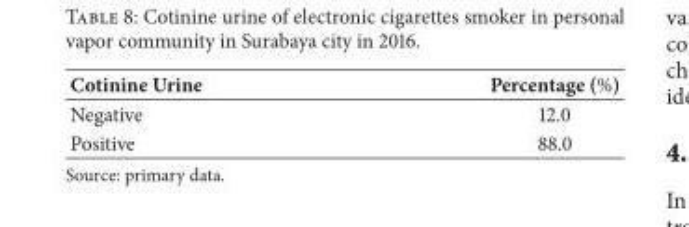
<table><thead><tr><td>Cotinine Urine</td><td>Percentage (%)</td></tr></thead><tbody><tr><td>Negative</td><td>12.0</td></tr><tr><td>Positive</td><td>88.0</td></tr></tbody></table>